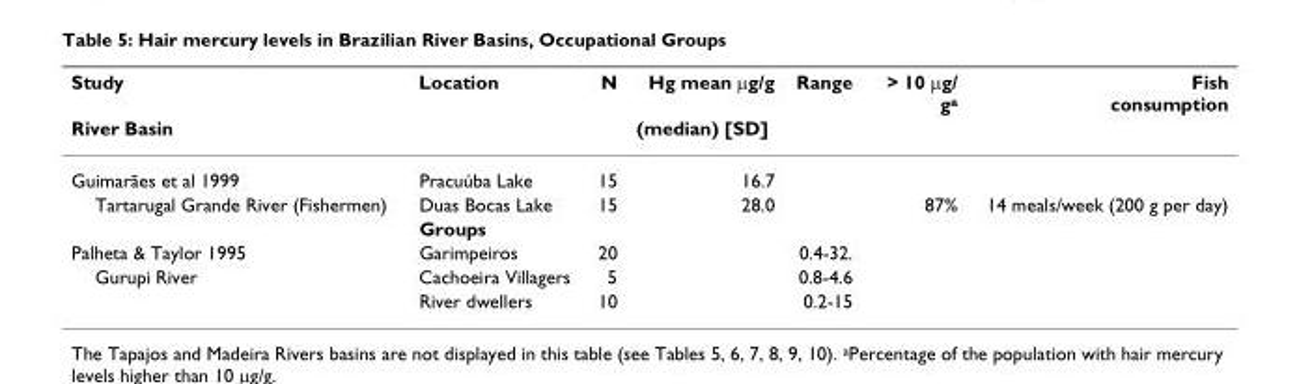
<table><thead><tr><td rowspan="2">Study River Basin</td><td rowspan="2">Location</td><td rowspan="2">N</td><td rowspan="2">Hg mean μg/g (median) [SD]</td><td rowspan="2">Range</td><td rowspan="2">&gt; 10 μg/ g<sup>a</sup></td><td rowspan="2">Fish consumption</td></tr><tr></tr></thead><tbody><tr><td>Guimarães et al 1999</td><td>Pracuúba Lake</td><td>15</td><td>16.7</td><td></td><td></td><td></td></tr><tr><td rowspan="2">Tartarugal Grande River (Fishermen)</td><td>Duas Bocas Lake</td><td>15</td><td>28.0</td><td></td><td>87%</td><td>14 meals/week (200 g per day)</td></tr><tr><td>Groups</td><td></td><td></td><td></td><td></td><td></td></tr><tr><td>Palheta &amp; Taylor 1995</td><td>Garimpeiros</td><td>20</td><td></td><td>0.4-32.</td><td></td><td></td></tr><tr><td rowspan="2">Gurupi River</td><td>Cachoeira Villagers</td><td>5</td><td></td><td>0.8-4.6</td><td></td><td></td></tr><tr><td>River dwellers</td><td>10</td><td></td><td>0.2-15</td><td></td><td></td></tr></tbody></table>